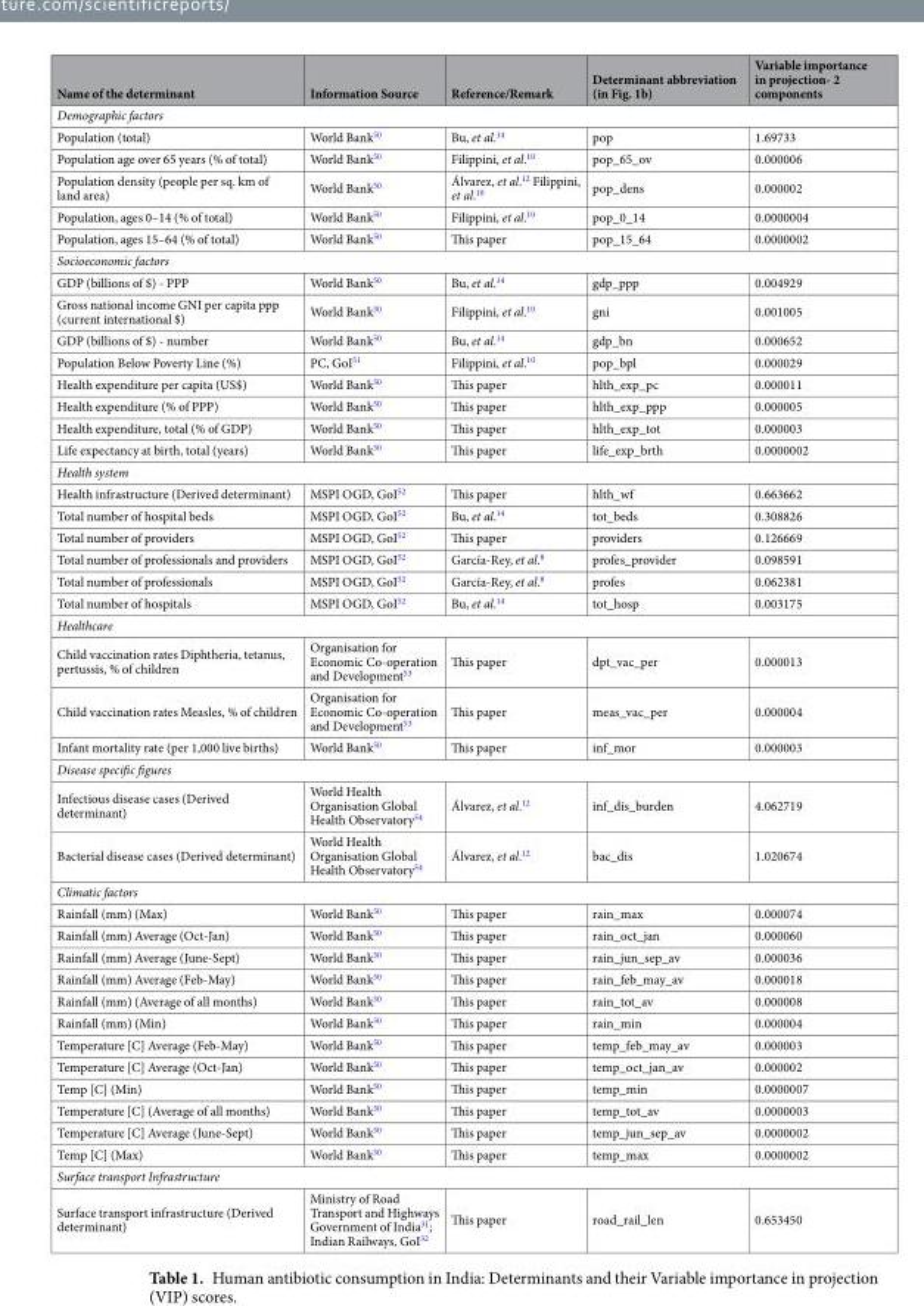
<table><thead><tr><td>Name of the determinant</td><td>Information Source</td><td>Reference/Remark</td><td>Determinant abbreviation (in Fig. 1b)</td><td>Variable importance in projection- 2 components</td></tr></thead><tbody><tr><td colspan="5">Demographic factors</td></tr><tr><td>Population (total)</td><td>World Bank<sup>50</sup></td><td>Bu, et al.<sup>14</sup></td><td>pop</td><td>1.69733</td></tr><tr><td>Population age over 65 years (% of total)</td><td>World Bank<sup>50</sup></td><td>Filippini, et al.<sup>10</sup></td><td>pop_65_ov</td><td>0.000006</td></tr><tr><td>Population density (people per sq. km of land area)</td><td>World Bank<sup>50</sup></td><td>Álvarez, et al.<sup>12</sup> Filippini, et al.<sup>10</sup></td><td>pop_dens</td><td>0.000002</td></tr><tr><td>Population, ages 0–14 (% of total)</td><td>World Bank<sup>50</sup></td><td>Filippini, et al.<sup>10</sup></td><td>pop_0_14</td><td>0.0000004</td></tr><tr><td>Population, ages 15–64 (% of total)</td><td>World Bank<sup>50</sup></td><td>This paper</td><td>pop_15_64</td><td>0.0000002</td></tr><tr><td colspan="5">Socioeconomic factors</td></tr><tr><td>GDP (billions of $) - PPP</td><td>World Bank<sup>50</sup></td><td>Bu, et al.<sup>14</sup></td><td>gdp_ppp</td><td>0.004929</td></tr><tr><td>Gross national income GNI per capita ppp (current international $)</td><td>World Bank<sup>50</sup></td><td>Filippini, et al.<sup>10</sup></td><td>gni</td><td>0.001005</td></tr><tr><td>GDP (billions of $) - number</td><td>World Bank<sup>50</sup></td><td>Bu, et al.<sup>14</sup></td><td>gdp_bn</td><td>0.000652</td></tr><tr><td>Population Below Poverty Line (%)</td><td>PC, GoI<sup>51</sup></td><td>Filippini, et al.<sup>10</sup></td><td>pop_bpl</td><td>0.000029</td></tr><tr><td>Health expenditure per capita (US$)</td><td>World Bank<sup>50</sup></td><td>This paper</td><td>hlth_exp_pc</td><td>0.000011</td></tr><tr><td>Health expenditure (% of PPP)</td><td>World Bank<sup>50</sup></td><td>This paper</td><td>hlth_exp_ppp</td><td>0.000005</td></tr><tr><td>Health expenditure, total (% of GDP)</td><td>World Bank<sup>50</sup></td><td>This paper</td><td>hlth_exp_tot</td><td>0.000003</td></tr><tr><td>Life expectancy at birth, total (years)</td><td>World Bank<sup>50</sup></td><td>This paper</td><td>life_exp_brth</td><td>0.0000002</td></tr><tr><td colspan="5">Health system</td></tr><tr><td>Health infrastructure (Derived determinant)</td><td>MSPI OGD, GoI<sup>52</sup></td><td>This paper</td><td>hlth_wf</td><td>0.663662</td></tr><tr><td>Total number of hospital beds</td><td>MSPI OGD, GoI<sup>52</sup></td><td>Bu, et al.<sup>14</sup></td><td>tot_beds</td><td>0.308826</td></tr><tr><td>Total number of providers</td><td>MSPI OGD, GoI<sup>52</sup></td><td>This paper</td><td>providers</td><td>0.126669</td></tr><tr><td>Total number of professionals and providers</td><td>MSPI OGD, GoI<sup>52</sup></td><td>García-Rey, et al.<sup>8</sup></td><td>profes_provider</td><td>0.098591</td></tr><tr><td>Total number of professionals</td><td>MSPI OGD, GoI<sup>52</sup></td><td>García-Rey, et al.<sup>8</sup></td><td>profes</td><td>0.062381</td></tr><tr><td>Total number of hospitals</td><td>MSPI OGD, GoI<sup>52</sup></td><td>Bu, et al.<sup>14</sup></td><td>tot_hosp</td><td>0.003175</td></tr><tr><td colspan="5">Healthcare</td></tr><tr><td>Child vaccination rates Diphtheria, tetanus, pertussis, % of children</td><td>Organisation for Economic Co-operation and Development<sup>53</sup></td><td>This paper</td><td>dpt_vac_per</td><td>0.000013</td></tr><tr><td>Child vaccination rates Measles, % of children</td><td>Organisation for Economic Co-operation and Development<sup>53</sup></td><td>This paper</td><td>meas_vac_per</td><td>0.000004</td></tr><tr><td>Infant mortality rate (per 1,000 live births)</td><td>World Bank<sup>50</sup></td><td>This paper</td><td>inf_mor</td><td>0.000003</td></tr><tr><td colspan="5">Disease specific figures</td></tr><tr><td>Infectious disease cases (Derived determinant)</td><td>World Health Organisation Global Health Observatory<sup>54</sup></td><td>Álvarez, et al.<sup>12</sup></td><td>inf_dis_burden</td><td>4.062719</td></tr><tr><td>Bacterial disease cases (Derived determinant)</td><td>World Health Organisation Global Health Observatory<sup>54</sup></td><td>Álvarez, et al.<sup>12</sup></td><td>bac_dis</td><td>1.020674</td></tr><tr><td colspan="5">Climatic factors</td></tr><tr><td>Rainfall (mm) (Max)</td><td>World Bank<sup>50</sup></td><td>This paper</td><td>rain_max</td><td>0.000074</td></tr><tr><td>Rainfall (mm) Average (Oct-Jan)</td><td>World Bank<sup>50</sup></td><td>This paper</td><td>rain_oct_jan</td><td>0.000060</td></tr><tr><td>Rainfall (mm) Average (June-Sept)</td><td>World Bank<sup>50</sup></td><td>This paper</td><td>rain_jun_sep_av</td><td>0.000036</td></tr><tr><td>Rainfall (mm) Average (Feb-May)</td><td>World Bank<sup>50</sup></td><td>This paper</td><td>rain_feb_may_av</td><td>0.000018</td></tr><tr><td>Rainfall (mm) (Average of all months)</td><td>World Bank<sup>50</sup></td><td>This paper</td><td>rain_tot_av</td><td>0.000008</td></tr><tr><td>Rainfall (mm) (Min)</td><td>World Bank<sup>50</sup></td><td>This paper</td><td>rain_min</td><td>0.000004</td></tr><tr><td>Temperature [C] Average (Feb-May)</td><td>World Bank<sup>50</sup></td><td>This paper</td><td>temp_feb_may_av</td><td>0.000003</td></tr><tr><td>Temperature [C] Average (Oct-Jan)</td><td>World Bank<sup>50</sup></td><td>This paper</td><td>temp_oct_jan_av</td><td>0.000002</td></tr><tr><td>Temp [C] (Min)</td><td>World Bank<sup>50</sup></td><td>This paper</td><td>temp_min</td><td>0.0000007</td></tr><tr><td>Temperature [C] (Average of all months)</td><td>World Bank<sup>50</sup></td><td>This paper</td><td>temp_tot_av</td><td>0.0000003</td></tr><tr><td>Temperature [C] Average (June-Sept)</td><td>World Bank<sup>50</sup></td><td>This paper</td><td>temp_jun_sep_av</td><td>0.0000002</td></tr><tr><td>Temp [C] (Max)</td><td>World Bank<sup>50</sup></td><td>This paper</td><td>temp_max</td><td>0.0000002</td></tr><tr><td colspan="5">Surface transport Infrastructure</td></tr><tr><td>Surface transport infrastructure (Derived determinant)</td><td>Ministry of Road Transport and Highways Government of India<sup>31</sup>; Indian Railways, GoI<sup>32</sup></td><td>This paper</td><td>road_rail_len</td><td>0.653450</td></tr></tbody></table>